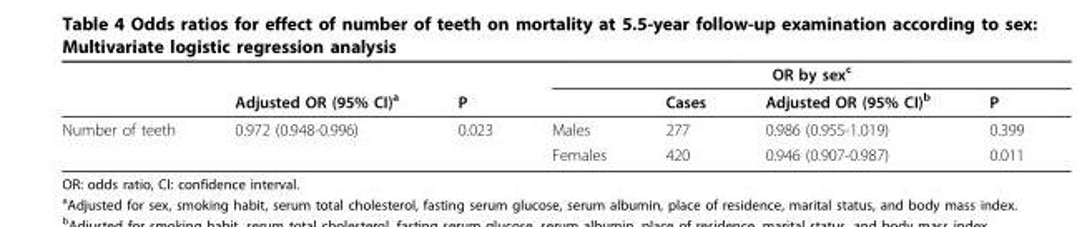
<table><thead><tr><td rowspan="2"></td><td rowspan="2">Adjusted OR (95% CI)<sup>a</sup></td><td rowspan="2">P</td><td colspan="4">OR by sex<sup>c</sup></td></tr><tr><td></td><td>Cases</td><td>Adjusted OR (95% CI)<sup>b</sup></td><td>P</td></tr></thead><tbody><tr><td rowspan="2">Number of teeth</td><td>0.972 (0.948-0.996)</td><td>0.023</td><td>Males</td><td>277</td><td>0.986 (0.955-1.019)</td><td>0.399</td></tr><tr><td></td><td></td><td>Females</td><td>420</td><td>0.946 (0.907-0.987)</td><td>0.011</td></tr></tbody></table>